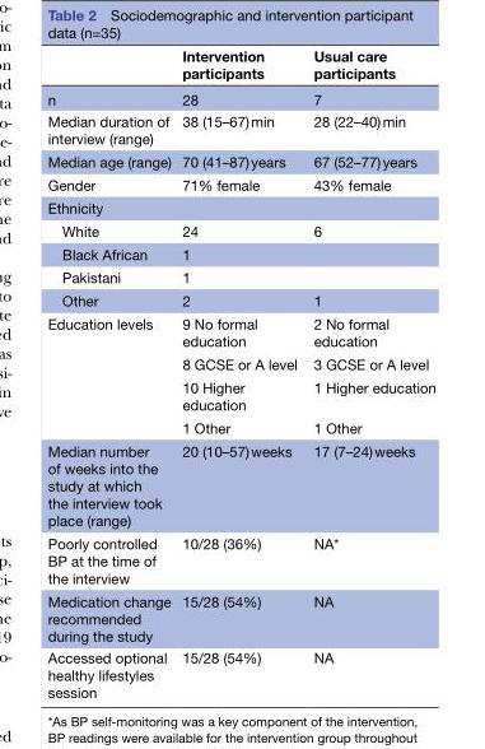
<table><thead><tr><td></td><td>Intervention participants</td><td>Usual care participants</td></tr></thead><tbody><tr><td>n</td><td>28</td><td>7</td></tr><tr><td>Median duration of interview (range)</td><td>38 (15–67) min</td><td>28 (22–40) min</td></tr><tr><td>Median age (range)</td><td>70 (41–87) years</td><td>67 (52–77) years</td></tr><tr><td>Gender</td><td>71% female</td><td>43% female</td></tr><tr><td colspan="3">Ethnicity</td></tr><tr><td>White</td><td>24</td><td>6</td></tr><tr><td>Black African</td><td>1</td><td></td></tr><tr><td>Pakistani</td><td>1</td><td></td></tr><tr><td>Other</td><td>2</td><td>1</td></tr><tr><td rowspan="4">Education levels</td><td>9 No formal education</td><td>2 No formal education</td></tr><tr><td>8 GCSE or A level</td><td>3 GCSE or A level</td></tr><tr><td>10 Higher education</td><td>1 Higher education</td></tr><tr><td>1 Other</td><td>1 Other</td></tr><tr><td>Median number of weeks into the study at which the interview took place (range)</td><td>20 (10–57) weeks</td><td>17 (7–24) weeks</td></tr><tr><td>Poorly controlled BP at the time of the interview</td><td>10/28 (36%)</td><td>NA*</td></tr><tr><td>Medication change recommended during the study</td><td>15/28 (54%)</td><td>NA</td></tr><tr><td>Accessed optional healthy lifestyles session</td><td>15/28 (54%)</td><td>NA</td></tr></tbody></table>